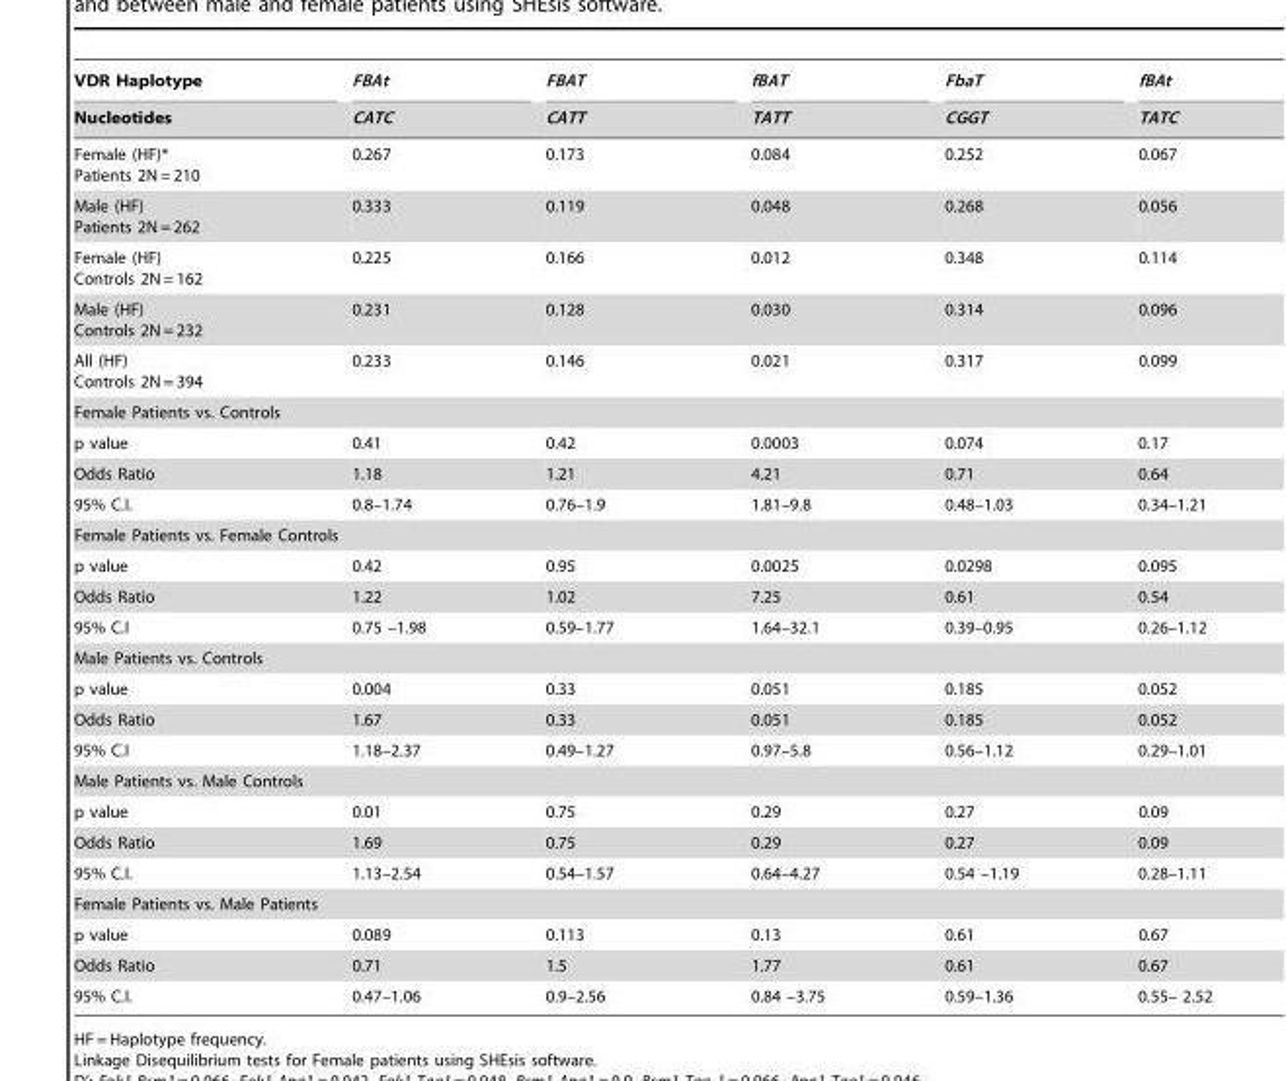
<table><thead><tr><td rowspan="2">VDR Haplotype Nucleotides</td><td rowspan="2">FBAt CATC</td><td rowspan="2">FBAT CATT</td><td rowspan="2">fBAT TATT</td><td rowspan="2">FbaT CGGT</td><td rowspan="2">fBAt TATC</td></tr><tr></tr></thead><tbody><tr><td>Female (HF)* Patients 2N = 210</td><td>0.267</td><td>0.173</td><td>0.084</td><td>0.252</td><td>0.067</td></tr><tr><td>Male (HF) Patients 2N = 262</td><td>0.333</td><td>0.119</td><td>0.048</td><td>0.268</td><td>0.056</td></tr><tr><td>Female (HF) Controls 2N = 162</td><td>0.225</td><td>0.166</td><td>0.012</td><td>0.348</td><td>0.114</td></tr><tr><td>Male (HF) Controls 2N = 232</td><td>0.231</td><td>0.128</td><td>0.030</td><td>0.314</td><td>0.096</td></tr><tr><td>All (HF) Controls 2N = 394</td><td>0.233</td><td>0.146</td><td>0.021</td><td>0.317</td><td>0.099</td></tr><tr><td colspan="6">Female Patients vs. Controls</td></tr><tr><td>p value</td><td>0.41</td><td>0.42</td><td>0.0003</td><td>0.074</td><td>0.17</td></tr><tr><td>Odds Ratio</td><td>1.18</td><td>1.21</td><td>4.21</td><td>0.71</td><td>0.64</td></tr><tr><td>95% C.I.</td><td>0.8–1.74</td><td>0.76–1.9</td><td>1.81–9.8</td><td>0.48–1.03</td><td>0.34–1.21</td></tr><tr><td colspan="6">Female Patients vs. Female Controls</td></tr><tr><td>p value</td><td>0.42</td><td>0.95</td><td>0.0025</td><td>0.0298</td><td>0.095</td></tr><tr><td>Odds Ratio</td><td>1.22</td><td>1.02</td><td>7.25</td><td>0.61</td><td>0.54</td></tr><tr><td>95% C.I</td><td>0.75 –1.98</td><td>0.59–1.77</td><td>1.64–32.1</td><td>0.39–0.95</td><td>0.26–1.12</td></tr><tr><td colspan="6">Male Patients vs. Controls</td></tr><tr><td>p value</td><td>0.004</td><td>0.33</td><td>0.051</td><td>0.185</td><td>0.052</td></tr><tr><td>Odds Ratio</td><td>1.67</td><td>0.33</td><td>0.051</td><td>0.185</td><td>0.052</td></tr><tr><td>95% C.I</td><td>1.18–2.37</td><td>0.49–1.27</td><td>0.97–5.8</td><td>0.56–1.12</td><td>0.29–1.01</td></tr><tr><td colspan="6">Male Patients vs. Male Controls</td></tr><tr><td>p value</td><td>0.01</td><td>0.75</td><td>0.29</td><td>0.27</td><td>0.09</td></tr><tr><td>Odds Ratio</td><td>1.69</td><td>0.75</td><td>0.29</td><td>0.27</td><td>0.09</td></tr><tr><td>95% C.I.</td><td>1.13–2.54</td><td>0.54–1.57</td><td>0.64–4.27</td><td>0.54 –1.19</td><td>0.28–1.11</td></tr><tr><td colspan="6">Female Patients vs. Male Patients</td></tr><tr><td>p value</td><td>0.089</td><td>0.113</td><td>0.13</td><td>0.61</td><td>0.67</td></tr><tr><td>Odds Ratio</td><td>0.71</td><td>1.5</td><td>1.77</td><td>0.61</td><td>0.67</td></tr><tr><td>95% C.I.</td><td>0.47–1.06</td><td>0.9–2.56</td><td>0.84 –3.75</td><td>0.59–1.36</td><td>0.55– 2.52</td></tr></tbody></table>